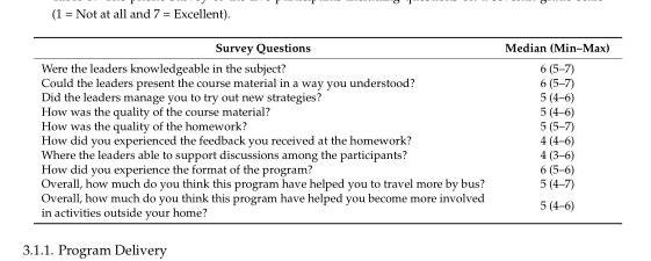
<table><thead><tr><td>Survey Questions</td><td>Median (Min–Max)</td></tr></thead><tbody><tr><td>Were the leaders knowledgeable in the subject?</td><td>6 (5–7)</td></tr><tr><td>Could the leaders present the course material in a way you understood?</td><td>6 (5–7)</td></tr><tr><td>Did the leaders manage you to try out new strategies?</td><td>5 (4–6)</td></tr><tr><td>How was the quality of the course material?</td><td>5 (4–6)</td></tr><tr><td>How was the quality of the homework?</td><td>5 (5–7)</td></tr><tr><td>How did you experienced the feedback you received at the homework?</td><td>4 (4–6)</td></tr><tr><td>Where the leaders able to support discussions among the participants?</td><td>4 (3–6)</td></tr><tr><td>How did you experience the format of the program?</td><td>6 (5–6)</td></tr><tr><td>Overall, how much do you think this program have helped you to travel more by bus?</td><td>5 (4–7)</td></tr><tr><td>Overall, how much do you think this program have helped you become more involved in activities outside your home?</td><td>5 (4–6)</td></tr></tbody></table>